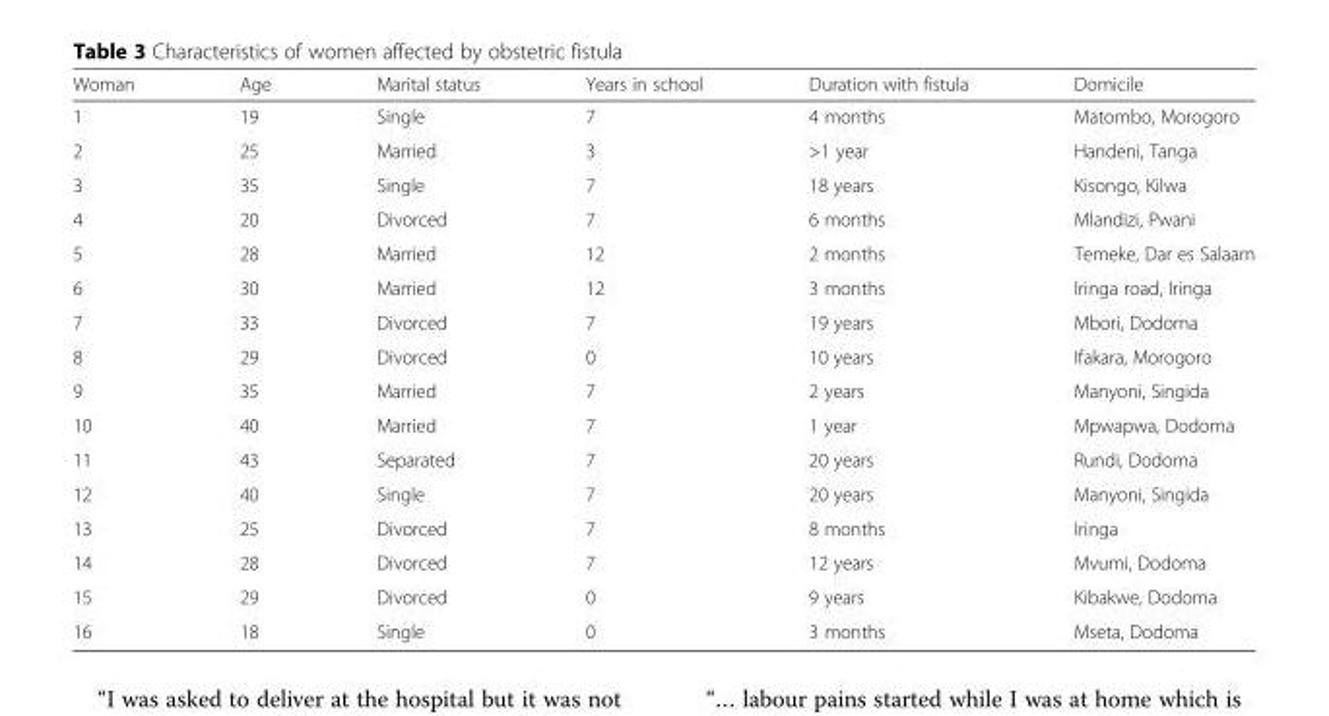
<table><thead><tr><td>Woman</td><td>Age</td><td>Marital status</td><td>Years in school</td><td>Duration with fistula</td><td>Domicile</td></tr></thead><tbody><tr><td>1</td><td>19</td><td>Single</td><td>7</td><td>4 months</td><td>Matombo, Morogoro</td></tr><tr><td>2</td><td>25</td><td>Married</td><td>3</td><td>&gt;1 year</td><td>Handeni, Tanga</td></tr><tr><td>3</td><td>35</td><td>Single</td><td>7</td><td>18 years</td><td>Kisongo, Kilwa</td></tr><tr><td>4</td><td>20</td><td>Divorced</td><td>7</td><td>6 months</td><td>Mlandizi, Pwani</td></tr><tr><td>5</td><td>28</td><td>Married</td><td>12</td><td>2 months</td><td>Temeke, Dar es Salaam</td></tr><tr><td>6</td><td>30</td><td>Married</td><td>12</td><td>3 months</td><td>Iringa road, Iringa</td></tr><tr><td>7</td><td>33</td><td>Divorced</td><td>7</td><td>19 years</td><td>Mbori, Dodoma</td></tr><tr><td>8</td><td>29</td><td>Divorced</td><td>0</td><td>10 years</td><td>Ifakara, Morogoro</td></tr><tr><td>9</td><td>35</td><td>Married</td><td>7</td><td>2 years</td><td>Manyoni, Singida</td></tr><tr><td>10</td><td>40</td><td>Married</td><td>7</td><td>1 year</td><td>Mpwapwa, Dodoma</td></tr><tr><td>11</td><td>43</td><td>Separated</td><td>7</td><td>20 years</td><td>Rundi, Dodoma</td></tr><tr><td>12</td><td>40</td><td>Single</td><td>7</td><td>20 years</td><td>Manyoni, Singida</td></tr><tr><td>13</td><td>25</td><td>Divorced</td><td>7</td><td>8 months</td><td>Iringa</td></tr><tr><td>14</td><td>28</td><td>Divorced</td><td>7</td><td>12 years</td><td>Mvumi, Dodoma</td></tr><tr><td>15</td><td>29</td><td>Divorced</td><td>0</td><td>9 years</td><td>Kibakwe, Dodoma</td></tr><tr><td>16</td><td>18</td><td>Single</td><td>0</td><td>3 months</td><td>Mseta, Dodoma</td></tr></tbody></table>